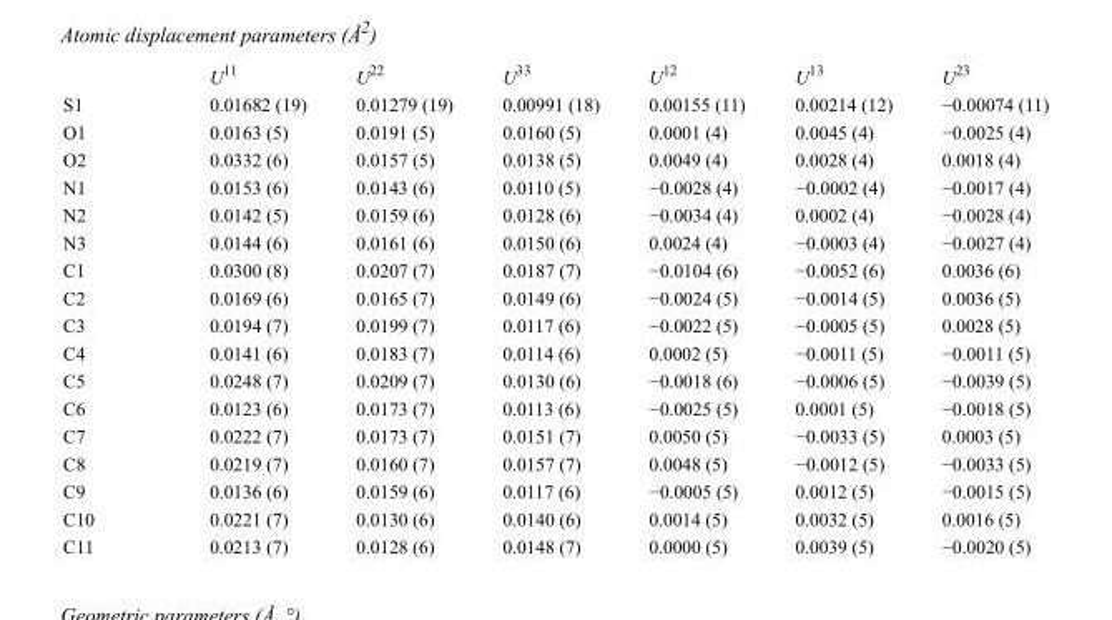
<table><thead><tr><td></td><td>U<sup>11</sup></td><td>U<sup>22</sup></td><td>U<sup>33</sup></td><td>U<sup>12</sup></td><td>U<sup>13</sup></td><td>U<sup>23</sup></td></tr></thead><tbody><tr><td>S1</td><td>0.01682 (19)</td><td>0.01279 (19)</td><td>0.00991 (18)</td><td>0.00155 (11)</td><td>0.00214 (12)</td><td>−0.00074 (11)</td></tr><tr><td>O1</td><td>0.0163 (5)</td><td>0.0191 (5)</td><td>0.0160 (5)</td><td>0.0001 (4)</td><td>0.0045 (4)</td><td>−0.0025 (4)</td></tr><tr><td>O2</td><td>0.0332 (6)</td><td>0.0157 (5)</td><td>0.0138 (5)</td><td>0.0049 (4)</td><td>0.0028 (4)</td><td>0.0018 (4)</td></tr><tr><td>N1</td><td>0.0153 (6)</td><td>0.0143 (6)</td><td>0.0110 (5)</td><td>−0.0028 (4)</td><td>−0.0002 (4)</td><td>−0.0017 (4)</td></tr><tr><td>N2</td><td>0.0142 (5)</td><td>0.0159 (6)</td><td>0.0128 (6)</td><td>−0.0034 (4)</td><td>0.0002 (4)</td><td>−0.0028 (4)</td></tr><tr><td>N3</td><td>0.0144 (6)</td><td>0.0161 (6)</td><td>0.0150 (6)</td><td>0.0024 (4)</td><td>−0.0003 (4)</td><td>−0.0027 (4)</td></tr><tr><td>C1</td><td>0.0300 (8)</td><td>0.0207 (7)</td><td>0.0187 (7)</td><td>−0.0104 (6)</td><td>−0.0052 (6)</td><td>0.0036 (6)</td></tr><tr><td>C2</td><td>0.0169 (6)</td><td>0.0165 (7)</td><td>0.0149 (6)</td><td>−0.0024 (5)</td><td>−0.0014 (5)</td><td>0.0036 (5)</td></tr><tr><td>C3</td><td>0.0194 (7)</td><td>0.0199 (7)</td><td>0.0117 (6)</td><td>−0.0022 (5)</td><td>−0.0005 (5)</td><td>0.0028 (5)</td></tr><tr><td>C4</td><td>0.0141 (6)</td><td>0.0183 (7)</td><td>0.0114 (6)</td><td>0.0002 (5)</td><td>−0.0011 (5)</td><td>−0.0011 (5)</td></tr><tr><td>C5</td><td>0.0248 (7)</td><td>0.0209 (7)</td><td>0.0130 (6)</td><td>−0.0018 (6)</td><td>−0.0006 (5)</td><td>−0.0039 (5)</td></tr><tr><td>C6</td><td>0.0123 (6)</td><td>0.0173 (7)</td><td>0.0113 (6)</td><td>−0.0025 (5)</td><td>0.0001 (5)</td><td>−0.0018 (5)</td></tr><tr><td>C7</td><td>0.0222 (7)</td><td>0.0173 (7)</td><td>0.0151 (7)</td><td>0.0050 (5)</td><td>−0.0033 (5)</td><td>0.0003 (5)</td></tr><tr><td>C8</td><td>0.0219 (7)</td><td>0.0160 (7)</td><td>0.0157 (7)</td><td>0.0048 (5)</td><td>−0.0012 (5)</td><td>−0.0033 (5)</td></tr><tr><td>C9</td><td>0.0136 (6)</td><td>0.0159 (6)</td><td>0.0117 (6)</td><td>−0.0005 (5)</td><td>0.0012 (5)</td><td>−0.0015 (5)</td></tr><tr><td>C10</td><td>0.0221 (7)</td><td>0.0130 (6)</td><td>0.0140 (6)</td><td>0.0014 (5)</td><td>0.0032 (5)</td><td>0.0016 (5)</td></tr><tr><td>C11</td><td>0.0213 (7)</td><td>0.0128 (6)</td><td>0.0148 (7)</td><td>0.0000 (5)</td><td>0.0039 (5)</td><td>−0.0020 (5)</td></tr></tbody></table>